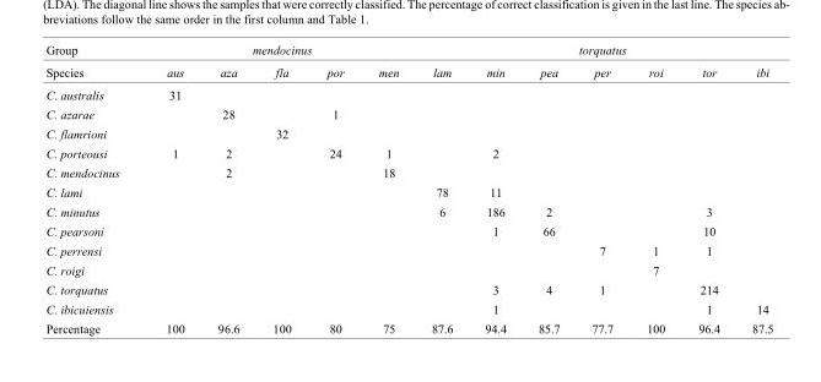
<table><thead><tr><td rowspan="2">Group Species</td><td colspan="5">mendocinus</td><td colspan="7">torquatus</td></tr><tr><td>aus</td><td>aza</td><td>fla</td><td>por</td><td>men</td><td>lam</td><td>min</td><td>pea</td><td>per</td><td>roi</td><td>tor</td><td>ibi</td></tr></thead><tbody><tr><td>C. australis</td><td>31</td><td></td><td></td><td></td><td></td><td></td><td></td><td></td><td></td><td></td><td></td><td></td></tr><tr><td>C. azarae</td><td></td><td>28</td><td></td><td>1</td><td></td><td></td><td></td><td></td><td></td><td></td><td></td><td></td></tr><tr><td>C. flamrioni</td><td></td><td></td><td>32</td><td></td><td></td><td></td><td></td><td></td><td></td><td></td><td></td><td></td></tr><tr><td>C. porteousi</td><td>1</td><td>2</td><td></td><td>24</td><td>1</td><td></td><td>2</td><td></td><td></td><td></td><td></td><td></td></tr><tr><td>C. mendocinus</td><td></td><td>2</td><td></td><td></td><td>18</td><td></td><td></td><td></td><td></td><td></td><td></td><td></td></tr><tr><td>C. lami</td><td></td><td></td><td></td><td></td><td></td><td>78</td><td>11</td><td></td><td></td><td></td><td></td><td></td></tr><tr><td>C. minutus</td><td></td><td></td><td></td><td></td><td></td><td>6</td><td>186</td><td>2</td><td></td><td></td><td>3</td><td></td></tr><tr><td>C. pearsoni</td><td></td><td></td><td></td><td></td><td></td><td></td><td>1</td><td>66</td><td></td><td></td><td>10</td><td></td></tr><tr><td>C. perrensi</td><td></td><td></td><td></td><td></td><td></td><td></td><td></td><td></td><td>7</td><td>1</td><td>1</td><td></td></tr><tr><td>C. roigi</td><td></td><td></td><td></td><td></td><td></td><td></td><td></td><td></td><td></td><td>7</td><td></td><td></td></tr><tr><td>C. torquatus</td><td></td><td></td><td></td><td></td><td></td><td></td><td>3</td><td>4</td><td>1</td><td></td><td>214</td><td></td></tr><tr><td>C. ibicuiensis</td><td></td><td></td><td></td><td></td><td></td><td></td><td>1</td><td></td><td></td><td></td><td>1</td><td>14</td></tr><tr><td>Percentage</td><td>100</td><td>96.6</td><td>100</td><td>80</td><td>75</td><td>87.6</td><td>94.4</td><td>85.7</td><td>77.7</td><td>100</td><td>96.4</td><td>87.5</td></tr></tbody></table>